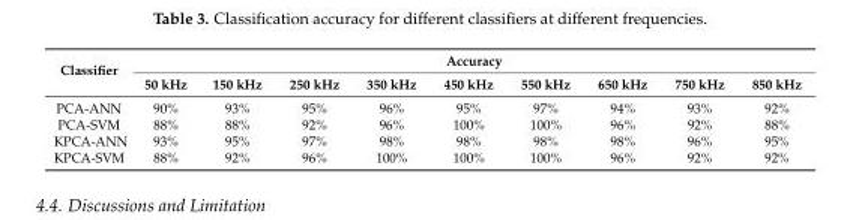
<table><thead><tr><td rowspan="2">Classifier</td><td colspan="9">Accuracy</td></tr><tr><td>50 kHz</td><td>150 kHz</td><td>250 kHz</td><td>350 kHz</td><td>450 kHz</td><td>550 kHz</td><td>650 kHz</td><td>750 kHz</td><td>850 kHz</td></tr></thead><tbody><tr><td>PCA-ANN</td><td>90%</td><td>93%</td><td>95%</td><td>96%</td><td>95%</td><td>97%</td><td>94%</td><td>93%</td><td>92%</td></tr><tr><td>PCA-SVM</td><td>88%</td><td>88%</td><td>92%</td><td>96%</td><td>100%</td><td>100%</td><td>96%</td><td>92%</td><td>88%</td></tr><tr><td>KPCA-ANN</td><td>93%</td><td>95%</td><td>97%</td><td>98%</td><td>98%</td><td>98%</td><td>98%</td><td>96%</td><td>95%</td></tr><tr><td>KPCA-SVM</td><td>88%</td><td>92%</td><td>96%</td><td>100%</td><td>100%</td><td>100%</td><td>96%</td><td>92%</td><td>92%</td></tr></tbody></table>